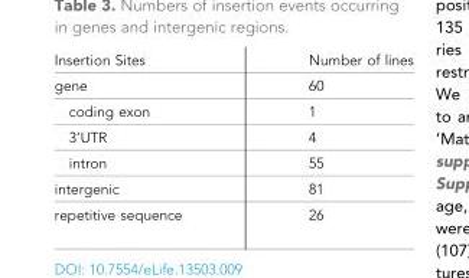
<table><tbody><tr><td>Insertion Sites</td><td>Number of lines</td></tr><tr><td>gene</td><td>60</td></tr><tr><td>coding exon</td><td>1</td></tr><tr><td>3’UTR</td><td>4</td></tr><tr><td>intron</td><td>55</td></tr><tr><td>intergenic</td><td>81</td></tr><tr><td>repetitive sequence</td><td>26</td></tr></tbody></table>